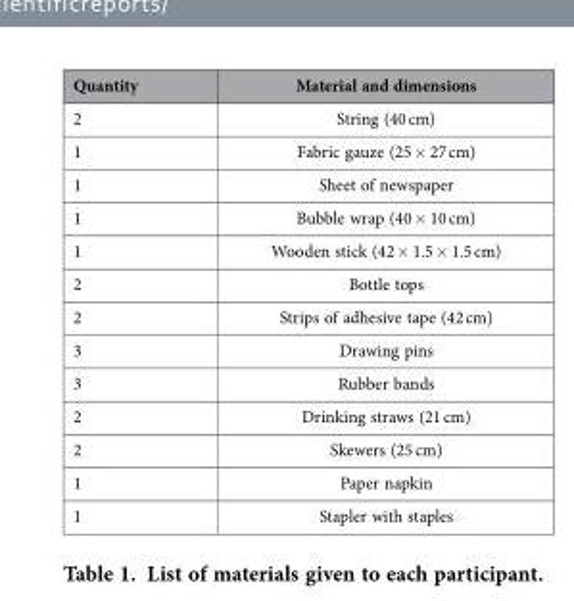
<table><thead><tr><td>Quantity</td><td>Material and dimensions</td></tr></thead><tbody><tr><td>2</td><td>String (40 cm)</td></tr><tr><td>1</td><td>Fabric gauze (25 × 27 cm)</td></tr><tr><td>1</td><td>Sheet of newspaper</td></tr><tr><td>1</td><td>Bubble wrap (40 × 10 cm)</td></tr><tr><td>1</td><td>Wooden stick (42 × 1.5 × 1.5 cm)</td></tr><tr><td>2</td><td>Bottle tops</td></tr><tr><td>2</td><td>Strips of adhesive tape (42 cm)</td></tr><tr><td>3</td><td>Drawing pins</td></tr><tr><td>3</td><td>Rubber bands</td></tr><tr><td>2</td><td>Drinking straws (21 cm)</td></tr><tr><td>2</td><td>Skewers (25 cm)</td></tr><tr><td>1</td><td>Paper napkin</td></tr><tr><td>1</td><td>Stapler with staples</td></tr></tbody></table>